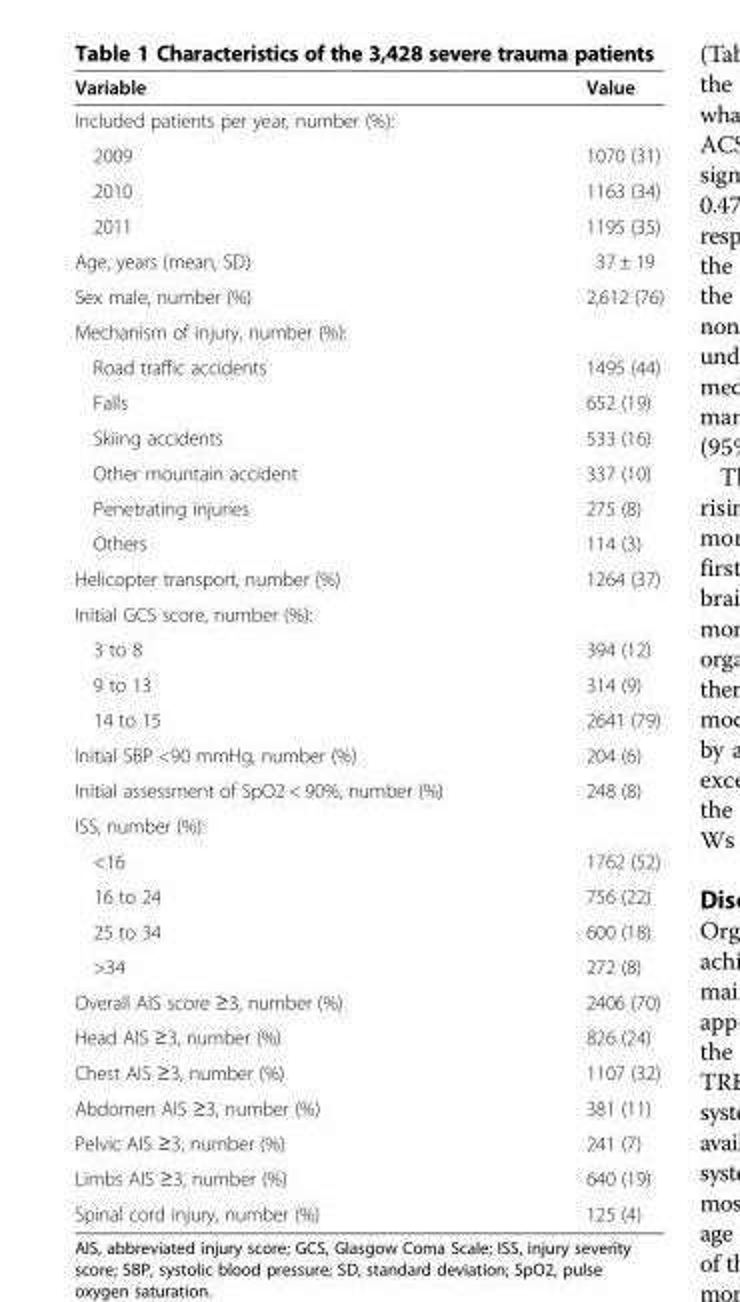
<table><thead><tr><td>Variable</td><td>Value</td></tr></thead><tbody><tr><td colspan="2">Included patients per year, number (%):</td></tr><tr><td>2009</td><td>1070 (31)</td></tr><tr><td>2010</td><td>1163 (34)</td></tr><tr><td>2011</td><td>1195 (35)</td></tr><tr><td>Age, years (mean, SD)</td><td>37 ± 19</td></tr><tr><td>Sex male, number (%)</td><td>2,612 (76)</td></tr><tr><td colspan="2">Mechanism of injury, number (%):</td></tr><tr><td>Road traffic accidents</td><td>1495 (44)</td></tr><tr><td>Falls</td><td>652 (19)</td></tr><tr><td>Skiing accidents</td><td>533 (16)</td></tr><tr><td>Other mountain accident</td><td>337 (10)</td></tr><tr><td>Penetrating injuries</td><td>275 (8)</td></tr><tr><td>Others</td><td>114 (3)</td></tr><tr><td>Helicopter transport, number (%)</td><td>1264 (37)</td></tr><tr><td colspan="2">Initial GCS score, number (%):</td></tr><tr><td>3 to 8</td><td>394 (12)</td></tr><tr><td>9 to 13</td><td>314 (9)</td></tr><tr><td>14 to 15</td><td>2641 (79)</td></tr><tr><td>Initial SBP &lt;90 mmHg, number (%)</td><td>204 (6)</td></tr><tr><td>Initial assessment of SpO2 &lt; 90%, number (%)</td><td>248 (8)</td></tr><tr><td colspan="2">ISS, number (%):</td></tr><tr><td>&lt;16</td><td>1762 (52)</td></tr><tr><td>16 to 24</td><td>756 (22)</td></tr><tr><td>25 to 34</td><td>600 (18)</td></tr><tr><td>&gt;34</td><td>272 (8)</td></tr><tr><td>Overall AIS score ≥3, number (%)</td><td>2406 (70)</td></tr><tr><td>Head AIS ≥3, number (%)</td><td>826 (24)</td></tr><tr><td>Chest AIS ≥3, number (%)</td><td>1107 (32)</td></tr><tr><td>Abdomen AIS ≥3, number (%)</td><td>381 (11)</td></tr><tr><td>Pelvic AIS ≥3, number (%)</td><td>241 (7)</td></tr><tr><td>Limbs AIS ≥3, number (%)</td><td>640 (19)</td></tr><tr><td>Spinal cord injury, number (%)</td><td>125 (4)</td></tr></tbody></table>